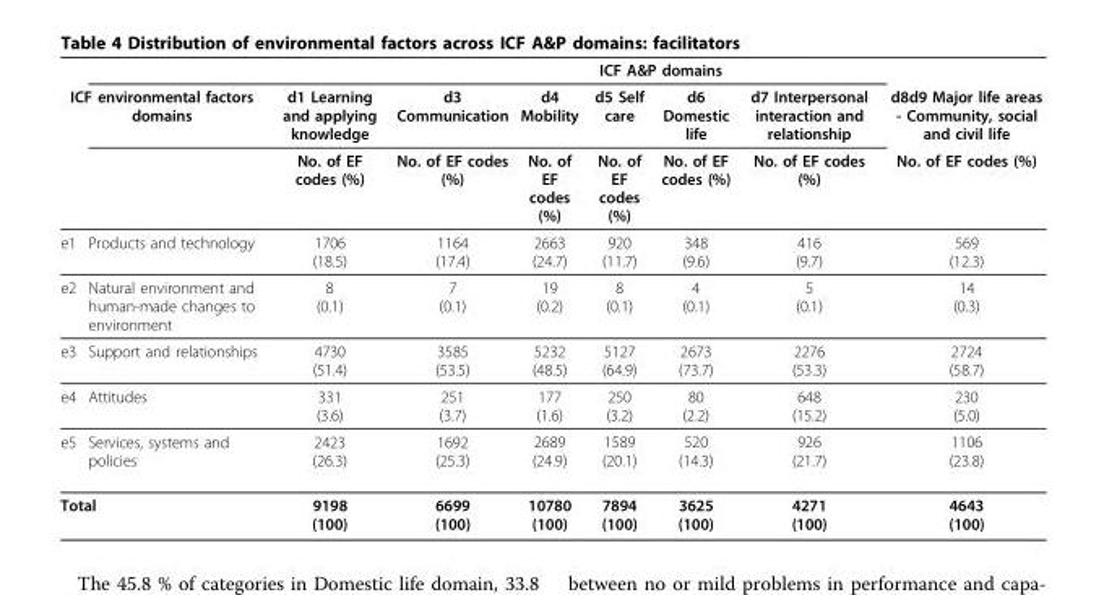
<table><thead><tr><td></td><td></td><td colspan="7">ICF A&amp;P domains</td></tr><tr><td colspan="2">ICF environmental factors domains</td><td rowspan="2">d1 Learning and applying knowledge No. of EF codes (%)</td><td rowspan="2">d3 Communication No. of EF codes (%)</td><td rowspan="2">d4 Mobility No. of EF codes (%)</td><td rowspan="2">d5 Self care No. of EF codes (%)</td><td rowspan="2">d6 Domestic life No. of EF codes (%)</td><td rowspan="2">d7 Interpersonal interaction and relationship No. of EF codes (%)</td><td rowspan="2">d8d9 Major life areas - Community, social and civil life No. of EF codes (%)</td></tr><tr><td></td><td></td></tr></thead><tbody><tr><td>e1</td><td>Products and technology</td><td>1706 (18.5)</td><td>1164 (17.4)</td><td>2663 (24.7)</td><td>920 (11.7)</td><td>348 (9.6)</td><td>416 (9.7)</td><td>569 (12.3)</td></tr><tr><td>e2</td><td>Natural environment and human-made changes to environment</td><td>8 (0.1)</td><td>7 (0.1)</td><td>19 (0.2)</td><td>8 (0.1)</td><td>4 (0.1)</td><td>5 (0.1)</td><td>14 (0.3)</td></tr><tr><td>e3</td><td>Support and relationships</td><td>4730 (51.4)</td><td>3585 (53.5)</td><td>5232 (48.5)</td><td>5127 (64.9)</td><td>2673 (73.7)</td><td>2276 (53.3)</td><td>2724 (58.7)</td></tr><tr><td>e4</td><td>Attitudes</td><td>331 (3.6)</td><td>251 (3.7)</td><td>177 (1.6)</td><td>250 (3.2)</td><td>80 (2.2)</td><td>648 (15.2)</td><td>230 (5.0)</td></tr><tr><td>e5</td><td>Services, systems and policies</td><td>2423 (26.3)</td><td>1692 (25.3)</td><td>2689 (24.9)</td><td>1589 (20.1)</td><td>520 (14.3)</td><td>926 (21.7)</td><td>1106 (23.8)</td></tr><tr><td colspan="2">Total</td><td>9198 (100)</td><td>6699 (100)</td><td>10780 (100)</td><td>7894 (100)</td><td>3625 (100)</td><td>4271 (100)</td><td>4643 (100)</td></tr></tbody></table>